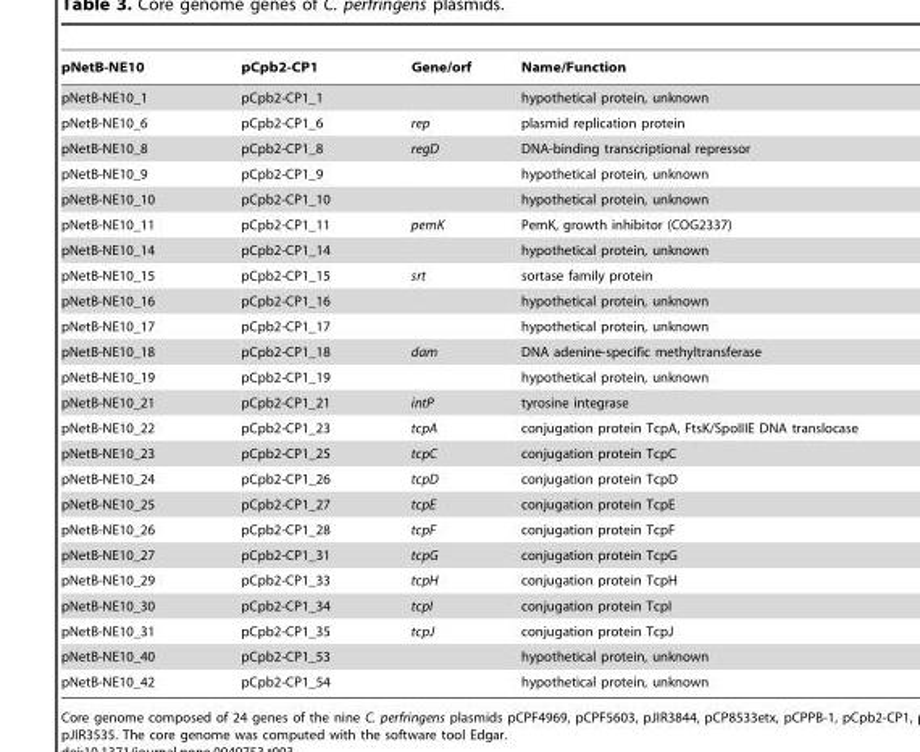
<table><thead><tr><td>pNetB-NE10</td><td>pCpb2-CP1</td><td>Gene/orf</td><td>Name/Function</td></tr></thead><tbody><tr><td>pNetB-NE10_1</td><td>pCpb2-CP1_1</td><td></td><td>hypothetical protein, unknown</td></tr><tr><td>pNetB-NE10_6</td><td>pCpb2-CP1_6</td><td>rep</td><td>plasmid replication protein</td></tr><tr><td>pNetB-NE10_8</td><td>pCpb2-CP1_8</td><td>regD</td><td>DNA-binding transcriptional repressor</td></tr><tr><td>pNetB-NE10_9</td><td>pCpb2-CP1_9</td><td></td><td>hypothetical protein, unknown</td></tr><tr><td>pNetB-NE10_10</td><td>pCpb2-CP1_10</td><td></td><td>hypothetical protein, unknown</td></tr><tr><td>pNetB-NE10_11</td><td>pCpb2-CP1_11</td><td>pemK</td><td>PemK, growth inhibitor (COG2337)</td></tr><tr><td>pNetB-NE10_14</td><td>pCpb2-CP1_14</td><td></td><td>hypothetical protein, unknown</td></tr><tr><td>pNetB-NE10_15</td><td>pCpb2-CP1_15</td><td>srt</td><td>sortase family protein</td></tr><tr><td>pNetB-NE10_16</td><td>pCpb2-CP1_16</td><td></td><td>hypothetical protein, unknown</td></tr><tr><td>pNetB-NE10_17</td><td>pCpb2-CP1_17</td><td></td><td>hypothetical protein, unknown</td></tr><tr><td>pNetB-NE10_18</td><td>pCpb2-CP1_18</td><td>dam</td><td>DNA adenine-specific methyltransferase</td></tr><tr><td>pNetB-NE10_19</td><td>pCpb2-CP1_19</td><td></td><td>hypothetical protein, unknown</td></tr><tr><td>pNetB-NE10_21</td><td>pCpb2-CP1_21</td><td>intP</td><td>tyrosine integrase</td></tr><tr><td>pNetB-NE10_22</td><td>pCpb2-CP1_23</td><td>tcpA</td><td>conjugation protein TcpA, FtsK/SpoIIIE DNA translocase</td></tr><tr><td>pNetB-NE10_23</td><td>pCpb2-CP1_25</td><td>tcpC</td><td>conjugation protein TcpC</td></tr><tr><td>pNetB-NE10_24</td><td>pCpb2-CP1_26</td><td>tcpD</td><td>conjugation protein TcpD</td></tr><tr><td>pNetB-NE10_25</td><td>pCpb2-CP1_27</td><td>tcpE</td><td>conjugation protein TcpE</td></tr><tr><td>pNetB-NE10_26</td><td>pCpb2-CP1_28</td><td>tcpF</td><td>conjugation protein TcpF</td></tr><tr><td>pNetB-NE10_27</td><td>pCpb2-CP1_31</td><td>tcpG</td><td>conjugation protein TcpG</td></tr><tr><td>pNetB-NE10_29</td><td>pCpb2-CP1_33</td><td>tcpH</td><td>conjugation protein TcpH</td></tr><tr><td>pNetB-NE10_30</td><td>pCpb2-CP1_34</td><td>tcpI</td><td>conjugation protein TcpI</td></tr><tr><td>pNetB-NE10_31</td><td>pCpb2-CP1_35</td><td>tcpJ</td><td>conjugation protein TcpJ</td></tr><tr><td>pNetB-NE10_40</td><td>pCpb2-CP1_53</td><td></td><td>hypothetical protein, unknown</td></tr><tr><td>pNetB-NE10_42</td><td>pCpb2-CP1_54</td><td></td><td>hypothetical protein, unknown</td></tr></tbody></table>